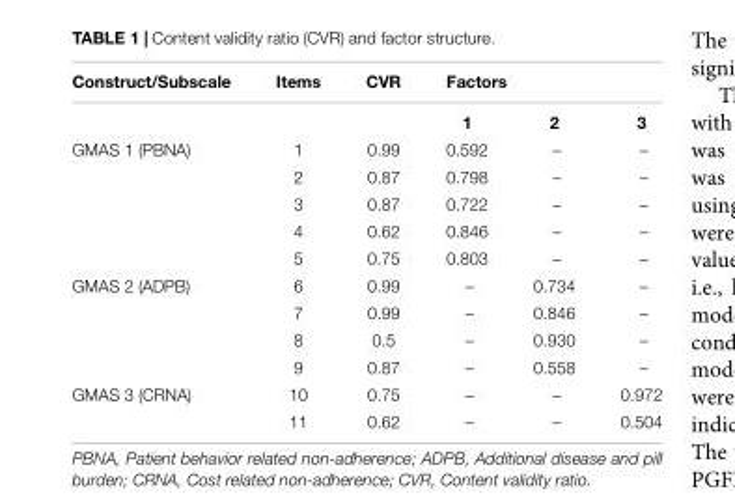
<table><thead><tr><td rowspan="2">Construct/Subscale</td><td rowspan="2">Items</td><td rowspan="2">CVR</td><td colspan="3">Factors</td></tr><tr><td>1</td><td>2</td><td>3</td></tr></thead><tbody><tr><td rowspan="5">GMAS 1 (PBNA)</td><td>1</td><td>0.99</td><td>0.592</td><td>–</td><td>–</td></tr><tr><td>2</td><td>0.87</td><td>0.798</td><td>–</td><td>–</td></tr><tr><td>3</td><td>0.87</td><td>0.722</td><td>–</td><td>–</td></tr><tr><td>4</td><td>0.62</td><td>0.846</td><td>–</td><td>–</td></tr><tr><td>5</td><td>0.75</td><td>0.803</td><td>–</td><td>–</td></tr><tr><td rowspan="4">GMAS 2 (ADPB)</td><td>6</td><td>0.99</td><td>–</td><td>0.734</td><td>–</td></tr><tr><td>7</td><td>0.99</td><td>–</td><td>0.846</td><td>–</td></tr><tr><td>8</td><td>0.5</td><td>–</td><td>0.930</td><td>–</td></tr><tr><td>9</td><td>0.87</td><td>–</td><td>0.558</td><td>–</td></tr><tr><td rowspan="2">GMAS 3 (CRNA)</td><td>10</td><td>0.75</td><td>–</td><td>–</td><td>0.972</td></tr><tr><td>11</td><td>0.62</td><td>–</td><td>–</td><td>0.504</td></tr></tbody></table>